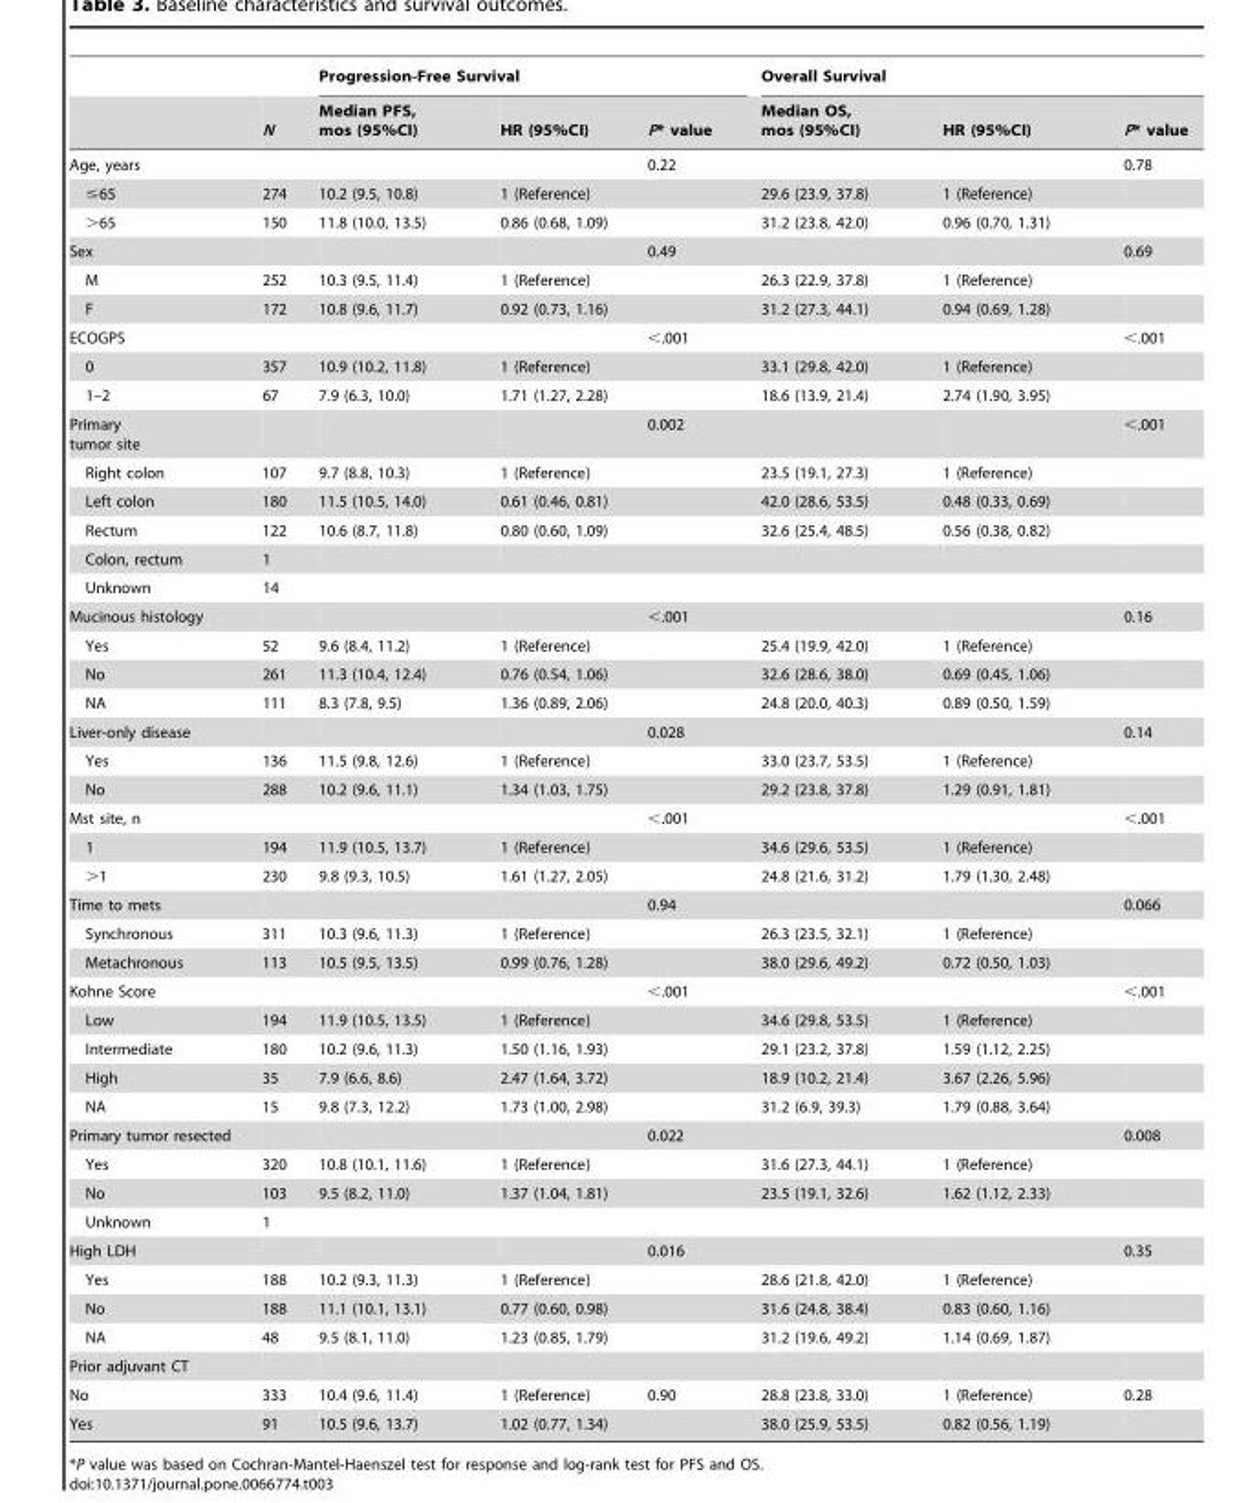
<table><thead><tr><td rowspan="2"></td><td rowspan="2">N</td><td colspan="3">Progression-Free Survival</td><td colspan="3">Overall Survival</td></tr><tr><td>Median PFS, mos (95%CI)</td><td>HR (95%CI)</td><td>P* value</td><td>Median OS, mos (95%CI)</td><td>HR (95%CI)</td><td>P* value</td></tr></thead><tbody><tr><td>Age, years</td><td></td><td></td><td></td><td>0.22</td><td></td><td></td><td>0.78</td></tr><tr><td>≤65</td><td>274</td><td>10.2 (9.5, 10.8)</td><td>1 (Reference)</td><td></td><td>29.6 (23.9, 37.8)</td><td>1 (Reference)</td><td></td></tr><tr><td>&gt;65</td><td>150</td><td>11.8 (10.0, 13.5)</td><td>0.86 (0.68, 1.09)</td><td></td><td>31.2 (23.8, 42.0)</td><td>0.96 (0.70, 1.31)</td><td></td></tr><tr><td>Sex</td><td></td><td></td><td></td><td>0.49</td><td></td><td></td><td>0.69</td></tr><tr><td>M</td><td>252</td><td>10.3 (9.5, 11.4)</td><td>1 (Reference)</td><td></td><td>26.3 (22.9, 37.8)</td><td>1 (Reference)</td><td></td></tr><tr><td>F</td><td>172</td><td>10.8 (9.6, 11.7)</td><td>0.92 (0.73, 1.16)</td><td></td><td>31.2 (27.3, 44.1)</td><td>0.94 (0.69, 1.28)</td><td></td></tr><tr><td>ECOGPS</td><td></td><td></td><td></td><td>&lt;.001</td><td></td><td></td><td>&lt;.001</td></tr><tr><td>0</td><td>357</td><td>10.9 (10.2, 11.8)</td><td>1 (Reference)</td><td></td><td>33.1 (29.8, 42.0)</td><td>1 (Reference)</td><td></td></tr><tr><td>1–2</td><td>67</td><td>7.9 (6.3, 10.0)</td><td>1.71 (1.27, 2.28)</td><td></td><td>18.6 (13.9, 21.4)</td><td>2.74 (1.90, 3.95)</td><td></td></tr><tr><td>Primary tumor site</td><td></td><td></td><td></td><td>0.002</td><td></td><td></td><td>&lt;.001</td></tr><tr><td>Right colon</td><td>107</td><td>9.7 (8.8, 10.3)</td><td>1 (Reference)</td><td></td><td>23.5 (19.1, 27.3)</td><td>1 (Reference)</td><td></td></tr><tr><td>Left colon</td><td>180</td><td>11.5 (10.5, 14.0)</td><td>0.61 (0.46, 0.81)</td><td></td><td>42.0 (28.6, 53.5)</td><td>0.48 (0.33, 0.69)</td><td></td></tr><tr><td>Rectum</td><td>122</td><td>10.6 (8.7, 11.8)</td><td>0.80 (0.60, 1.09)</td><td></td><td>32.6 (25.4, 48.5)</td><td>0.56 (0.38, 0.82)</td><td></td></tr><tr><td>Colon, rectum</td><td>1</td><td></td><td></td><td></td><td></td><td></td><td></td></tr><tr><td>Unknown</td><td>14</td><td></td><td></td><td></td><td></td><td></td><td></td></tr><tr><td>Mucinous histology</td><td></td><td></td><td></td><td>&lt;.001</td><td></td><td></td><td>0.16</td></tr><tr><td>Yes</td><td>52</td><td>9.6 (8.4, 11.2)</td><td>1 (Reference)</td><td></td><td>25.4 (19.9, 42.0)</td><td>1 (Reference)</td><td></td></tr><tr><td>No</td><td>261</td><td>11.3 (10.4, 12.4)</td><td>0.76 (0.54, 1.06)</td><td></td><td>32.6 (28.6, 38.0)</td><td>0.69 (0.45, 1.06)</td><td></td></tr><tr><td>NA</td><td>111</td><td>8.3 (7.8, 9.5)</td><td>1.36 (0.89, 2.06)</td><td></td><td>24.8 (20.0, 40.3)</td><td>0.89 (0.50, 1.59)</td><td></td></tr><tr><td>Liver-only disease</td><td></td><td></td><td></td><td>0.028</td><td></td><td></td><td>0.14</td></tr><tr><td>Yes</td><td>136</td><td>11.5 (9.8, 12.6)</td><td>1 (Reference)</td><td></td><td>33.0 (23.7, 53.5)</td><td>1 (Reference)</td><td></td></tr><tr><td>No</td><td>288</td><td>10.2 (9.6, 11.1)</td><td>1.34 (1.03, 1.75)</td><td></td><td>29.2 (23.8, 37.8)</td><td>1.29 (0.91, 1.81)</td><td></td></tr><tr><td>Mst site, n</td><td></td><td></td><td></td><td>&lt;.001</td><td></td><td></td><td>&lt;.001</td></tr><tr><td>1</td><td>194</td><td>11.9 (10.5, 13.7)</td><td>1 (Reference)</td><td></td><td>34.6 (29.6, 53.5)</td><td>1 (Reference)</td><td></td></tr><tr><td>&gt;1</td><td>230</td><td>9.8 (9.3, 10.5)</td><td>1.61 (1.27, 2.05)</td><td></td><td>24.8 (21.6, 31.2)</td><td>1.79 (1.30, 2.48)</td><td></td></tr><tr><td>Time to mets</td><td></td><td></td><td></td><td>0.94</td><td></td><td></td><td>0.066</td></tr><tr><td>Synchronous</td><td>311</td><td>10.3 (9.6, 11.3)</td><td>1 (Reference)</td><td></td><td>26.3 (23.5, 32.1)</td><td>1 (Reference)</td><td></td></tr><tr><td>Metachronous</td><td>113</td><td>10.5 (9.5, 13.5)</td><td>0.99 (0.76, 1.28)</td><td></td><td>38.0 (29.6, 49.2)</td><td>0.72 (0.50, 1.03)</td><td></td></tr><tr><td>Kohne Score</td><td></td><td></td><td></td><td>&lt;.001</td><td></td><td></td><td>&lt;.001</td></tr><tr><td>Low</td><td>194</td><td>11.9 (10.5, 13.5)</td><td>1 (Reference)</td><td></td><td>34.6 (29.8, 53.5)</td><td>1 (Reference)</td><td></td></tr><tr><td>Intermediate</td><td>180</td><td>10.2 (9.6, 11.3)</td><td>1.50 (1.16, 1.93)</td><td></td><td>29.1 (23.2, 37.8)</td><td>1.59 (1.12, 2.25)</td><td></td></tr><tr><td>High</td><td>35</td><td>7.9 (6.6, 8.6)</td><td>2.47 (1.64, 3.72)</td><td></td><td>18.9 (10.2, 21.4)</td><td>3.67 (2.26, 5.96)</td><td></td></tr><tr><td>NA</td><td>15</td><td>9.8 (7.3, 12.2)</td><td>1.73 (1.00, 2.98)</td><td></td><td>31.2 (6.9, 39.3)</td><td>1.79 (0.88, 3.64)</td><td></td></tr><tr><td>Primary tumor resected</td><td></td><td></td><td></td><td>0.022</td><td></td><td></td><td>0.008</td></tr><tr><td>Yes</td><td>320</td><td>10.8 (10.1, 11.6)</td><td>1 (Reference)</td><td></td><td>31.6 (27.3, 44.1)</td><td>1 (Reference)</td><td></td></tr><tr><td>No</td><td>103</td><td>9.5 (8.2, 11.0)</td><td>1.37 (1.04, 1.81)</td><td></td><td>23.5 (19.1, 32.6)</td><td>1.62 (1.12, 2.33)</td><td></td></tr><tr><td>Unknown</td><td>1</td><td></td><td></td><td></td><td></td><td></td><td></td></tr><tr><td>High LDH</td><td></td><td></td><td></td><td>0.016</td><td></td><td></td><td>0.35</td></tr><tr><td>Yes</td><td>188</td><td>10.2 (9.3, 11.3)</td><td>1 (Reference)</td><td></td><td>28.6 (21.8, 42.0)</td><td>1 (Reference)</td><td></td></tr><tr><td>No</td><td>188</td><td>11.1 (10.1, 13.1)</td><td>0.77 (0.60, 0.98)</td><td></td><td>31.6 (24.8, 38.4)</td><td>0.83 (0.60, 1.16)</td><td></td></tr><tr><td>NA</td><td>48</td><td>9.5 (8.1, 11.0)</td><td>1.23 (0.85, 1.79)</td><td></td><td>31.2 (19.6, 49.2)</td><td>1.14 (0.69, 1.87)</td><td></td></tr><tr><td colspan="8">Prior adjuvant CT</td></tr><tr><td>No</td><td>333</td><td>10.4 (9.6, 11.4)</td><td>1 (Reference)</td><td>0.90</td><td>28.8 (23.8, 33.0)</td><td>1 (Reference)</td><td>0.28</td></tr><tr><td>Yes</td><td>91</td><td>10.5 (9.6, 13.7)</td><td>1.02 (0.77, 1.34)</td><td></td><td>38.0 (25.9, 53.5)</td><td>0.82 (0.56, 1.19)</td><td></td></tr></tbody></table>